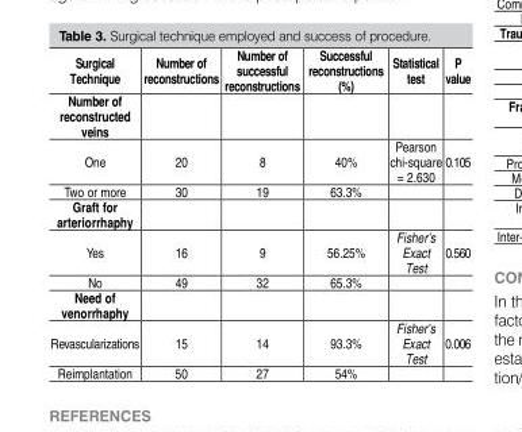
<table><thead><tr><td>Surgical Technique</td><td>Number of reconstructions</td><td>Number of successful reconstructions</td><td>Successful reconstructions (%)</td><td>Statistical test</td><td>P value</td></tr></thead><tbody><tr><td colspan="6">Number of reconstructed veins</td></tr><tr><td>One</td><td>20</td><td>8</td><td>40%</td><td>Pearson chi-square = 2.630</td><td>0.105</td></tr><tr><td>Two or more</td><td>30</td><td>19</td><td>63.3%</td><td></td><td></td></tr><tr><td colspan="6">Graft for arteriorrhaphy</td></tr><tr><td>Yes</td><td>16</td><td>9</td><td>56.25%</td><td>Fisher&#x27;s Exact Test</td><td>0.560</td></tr><tr><td>No</td><td>49</td><td>32</td><td>65.3%</td><td></td><td></td></tr><tr><td colspan="6">Need of venorrhaphy</td></tr><tr><td>Revascularizations</td><td>15</td><td>14</td><td>93.3%</td><td>Fisher&#x27;s Exact Test</td><td>0.006</td></tr><tr><td>Reimplantation</td><td>50</td><td>27</td><td>54%</td><td></td><td></td></tr></tbody></table>